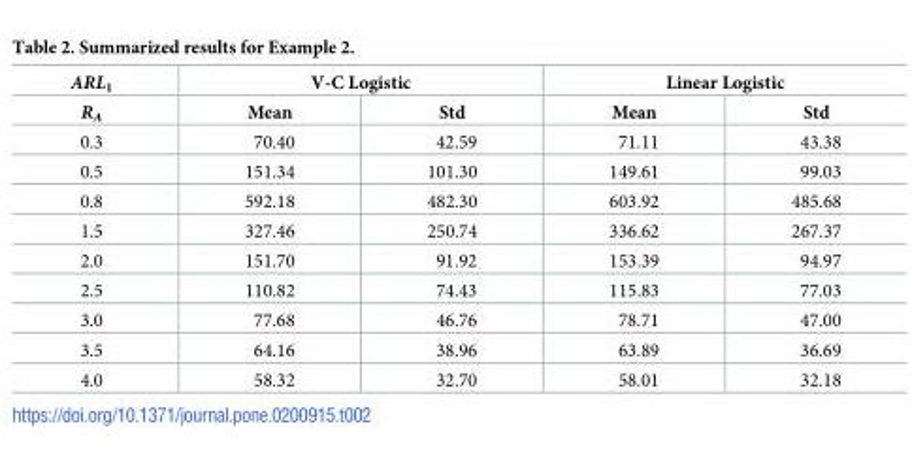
<table><thead><tr><td rowspan="2">ARL<sub>1</sub> R<sub>A</sub></td><td colspan="2">V-C Logistic</td><td colspan="2">Linear Logistic</td></tr><tr><td>Mean</td><td>Std</td><td>Mean</td><td>Std</td></tr></thead><tbody><tr><td>0.3</td><td>70.40</td><td>42.59</td><td>71.11</td><td>43.38</td></tr><tr><td>0.5</td><td>151.34</td><td>101.30</td><td>149.61</td><td>99.03</td></tr><tr><td>0.8</td><td>592.18</td><td>482.30</td><td>603.92</td><td>485.68</td></tr><tr><td>1.5</td><td>327.46</td><td>250.74</td><td>336.62</td><td>267.37</td></tr><tr><td>2.0</td><td>151.70</td><td>91.92</td><td>153.39</td><td>94.97</td></tr><tr><td>2.5</td><td>110.82</td><td>74.43</td><td>115.83</td><td>77.03</td></tr><tr><td>3.0</td><td>77.68</td><td>46.76</td><td>78.71</td><td>47.00</td></tr><tr><td>3.5</td><td>64.16</td><td>38.96</td><td>63.89</td><td>36.69</td></tr><tr><td>4.0</td><td>58.32</td><td>32.70</td><td>58.01</td><td>32.18</td></tr></tbody></table>